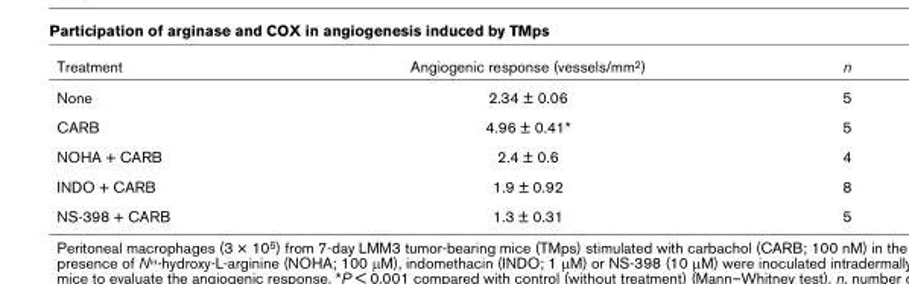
<table><thead><tr><td>Treatment</td><td>Angiogenic response (vessels/mm2)</td><td>n</td></tr></thead><tbody><tr><td>None</td><td>2.34 ± 0.06</td><td>5</td></tr><tr><td>CARB</td><td>4.96 ± 0.41*</td><td>5</td></tr><tr><td>NOHA + CARB</td><td>2.4 ± 0.6</td><td>4</td></tr><tr><td>INDO + CARB</td><td>1.9 ± 0.92</td><td>8</td></tr><tr><td>NS-398 + CARB</td><td>1.3 ± 0.31</td><td>5</td></tr></tbody></table>